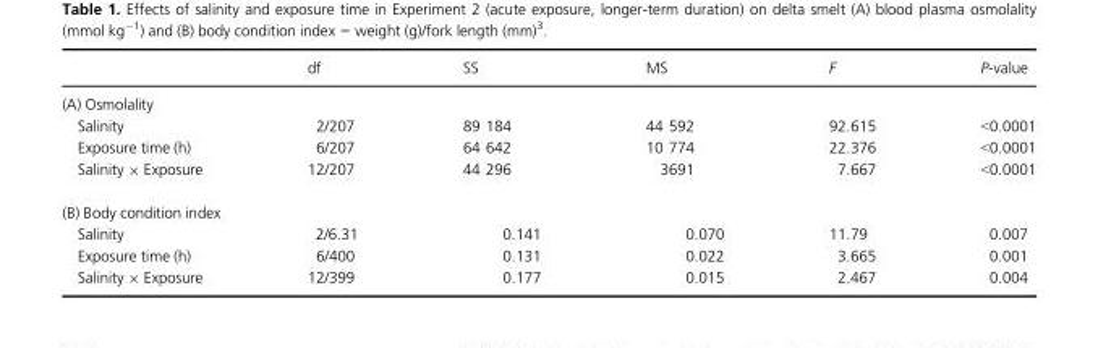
<table><thead><tr><td></td><td>df</td><td>SS</td><td>MS</td><td>F</td><td>P-value</td></tr></thead><tbody><tr><td colspan="6">(A) Osmolality</td></tr><tr><td>Salinity</td><td>2/207</td><td>89 184</td><td>44 592</td><td>92.615</td><td>&lt;0.0001</td></tr><tr><td>Exposure time (h)</td><td>6/207</td><td>64 642</td><td>10 774</td><td>22.376</td><td>&lt;0.0001</td></tr><tr><td>Salinity × Exposure</td><td>12/207</td><td>44 296</td><td>3691</td><td>7.667</td><td>&lt;0.0001</td></tr><tr><td colspan="6">(B) Body condition index</td></tr><tr><td>Salinity</td><td>2/6.31</td><td>0.141</td><td>0.070</td><td>11.79</td><td>0.007</td></tr><tr><td>Exposure time (h)</td><td>6/400</td><td>0.131</td><td>0.022</td><td>3.665</td><td>0.001</td></tr><tr><td>Salinity × Exposure</td><td>12/399</td><td>0.177</td><td>0.015</td><td>2.467</td><td>0.004</td></tr></tbody></table>